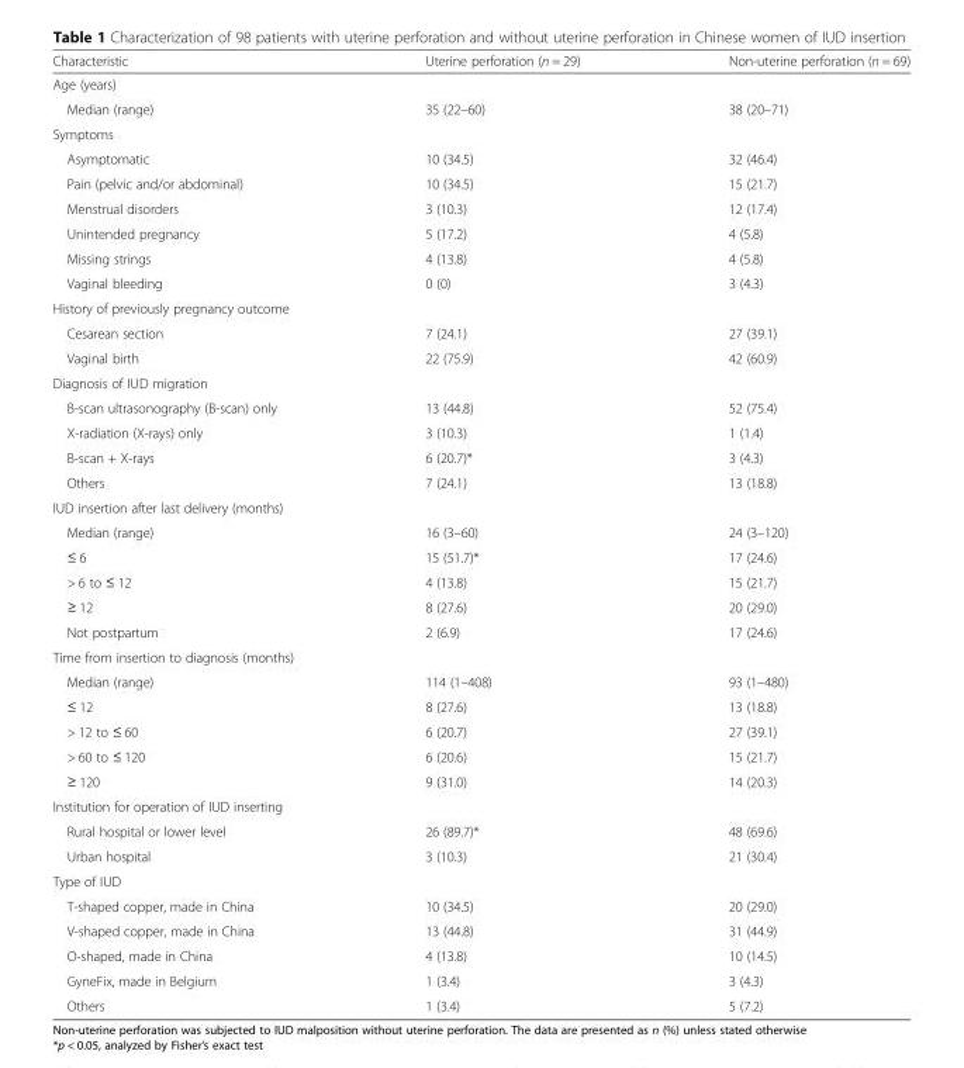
<table><thead><tr><td>Characteristic</td><td>Uterine perforation (n = 29)</td><td>Non-uterine perforation (n = 69)</td></tr></thead><tbody><tr><td colspan="3">Age (years)</td></tr><tr><td>Median (range)</td><td>35 (22–60)</td><td>38 (20–71)</td></tr><tr><td colspan="3">Symptoms</td></tr><tr><td>Asymptomatic</td><td>10 (34.5)</td><td>32 (46.4)</td></tr><tr><td>Pain (pelvic and/or abdominal)</td><td>10 (34.5)</td><td>15 (21.7)</td></tr><tr><td>Menstrual disorders</td><td>3 (10.3)</td><td>12 (17.4)</td></tr><tr><td>Unintended pregnancy</td><td>5 (17.2)</td><td>4 (5.8)</td></tr><tr><td>Missing strings</td><td>4 (13.8)</td><td>4 (5.8)</td></tr><tr><td>Vaginal bleeding</td><td>0 (0)</td><td>3 (4.3)</td></tr><tr><td colspan="3">History of previously pregnancy outcome</td></tr><tr><td>Cesarean section</td><td>7 (24.1)</td><td>27 (39.1)</td></tr><tr><td>Vaginal birth</td><td>22 (75.9)</td><td>42 (60.9)</td></tr><tr><td colspan="3">Diagnosis of IUD migration</td></tr><tr><td>B-scan ultrasonography (B-scan) only</td><td>13 (44.8)</td><td>52 (75.4)</td></tr><tr><td>X-radiation (X-rays) only</td><td>3 (10.3)</td><td>1 (1.4)</td></tr><tr><td>B-scan + X-rays</td><td>6 (20.7)*</td><td>3 (4.3)</td></tr><tr><td>Others</td><td>7 (24.1)</td><td>13 (18.8)</td></tr><tr><td colspan="3">IUD insertion after last delivery (months)</td></tr><tr><td>Median (range)</td><td>16 (3–60)</td><td>24 (3–120)</td></tr><tr><td>≤ 6</td><td>15 (51.7)*</td><td>17 (24.6)</td></tr><tr><td>&gt; 6 to ≤ 12</td><td>4 (13.8)</td><td>15 (21.7)</td></tr><tr><td>≥ 12</td><td>8 (27.6)</td><td>20 (29.0)</td></tr><tr><td>Not postpartum</td><td>2 (6.9)</td><td>17 (24.6)</td></tr><tr><td colspan="3">Time from insertion to diagnosis (months)</td></tr><tr><td>Median (range)</td><td>114 (1–408)</td><td>93 (1–480)</td></tr><tr><td>≤ 12</td><td>8 (27.6)</td><td>13 (18.8)</td></tr><tr><td>&gt; 12 to ≤ 60</td><td>6 (20.7)</td><td>27 (39.1)</td></tr><tr><td>&gt; 60 to ≤ 120</td><td>6 (20.6)</td><td>15 (21.7)</td></tr><tr><td>≥ 120</td><td>9 (31.0)</td><td>14 (20.3)</td></tr><tr><td colspan="3">Institution for operation of IUD inserting</td></tr><tr><td>Rural hospital or lower level</td><td>26 (89.7)*</td><td>48 (69.6)</td></tr><tr><td>Urban hospital</td><td>3 (10.3)</td><td>21 (30.4)</td></tr><tr><td colspan="3">Type of IUD</td></tr><tr><td>T-shaped copper, made in China</td><td>10 (34.5)</td><td>20 (29.0)</td></tr><tr><td>V-shaped copper, made in China</td><td>13 (44.8)</td><td>31 (44.9)</td></tr><tr><td>O-shaped, made in China</td><td>4 (13.8)</td><td>10 (14.5)</td></tr><tr><td>GyneFix, made in Belgium</td><td>1 (3.4)</td><td>3 (4.3)</td></tr><tr><td>Others</td><td>1 (3.4)</td><td>5 (7.2)</td></tr></tbody></table>